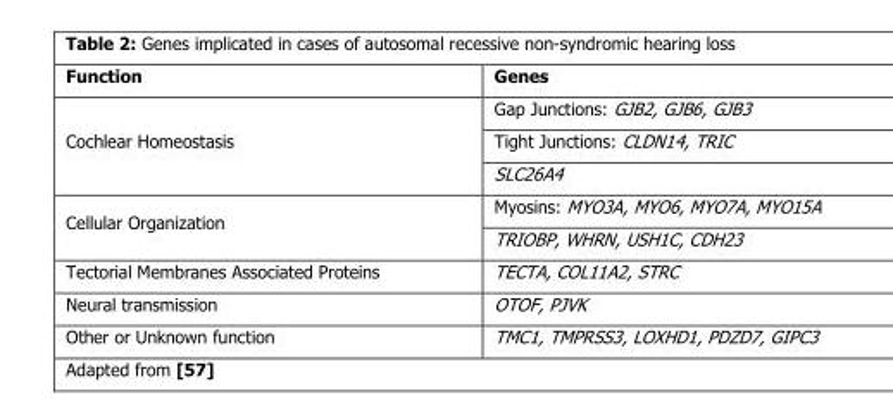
<table><thead><tr><td>Function</td><td>Genes</td></tr></thead><tbody><tr><td rowspan="3">Cochlear Homeostasis</td><td>Gap Junctions: GJB2, GJB6, GJB3</td></tr><tr><td>Tight Junctions: CLDN14, TRIC</td></tr><tr><td>SLC26A4</td></tr><tr><td rowspan="2">Cellular Organization</td><td>Myosins: MYO3A, MYO6, MYO7A, MYO15A</td></tr><tr><td>TRIOBP, WHRN, USH1C, CDH23</td></tr><tr><td>Tectorial Membranes Associated Proteins</td><td>TECTA, COL11A2, STRC</td></tr><tr><td>Neural transmission</td><td>OTOF, PJVK</td></tr><tr><td>Other or Unknown function</td><td>TMC1, TMPRSS3, LOXHD1, PDZD7, GIPC3</td></tr></tbody></table>